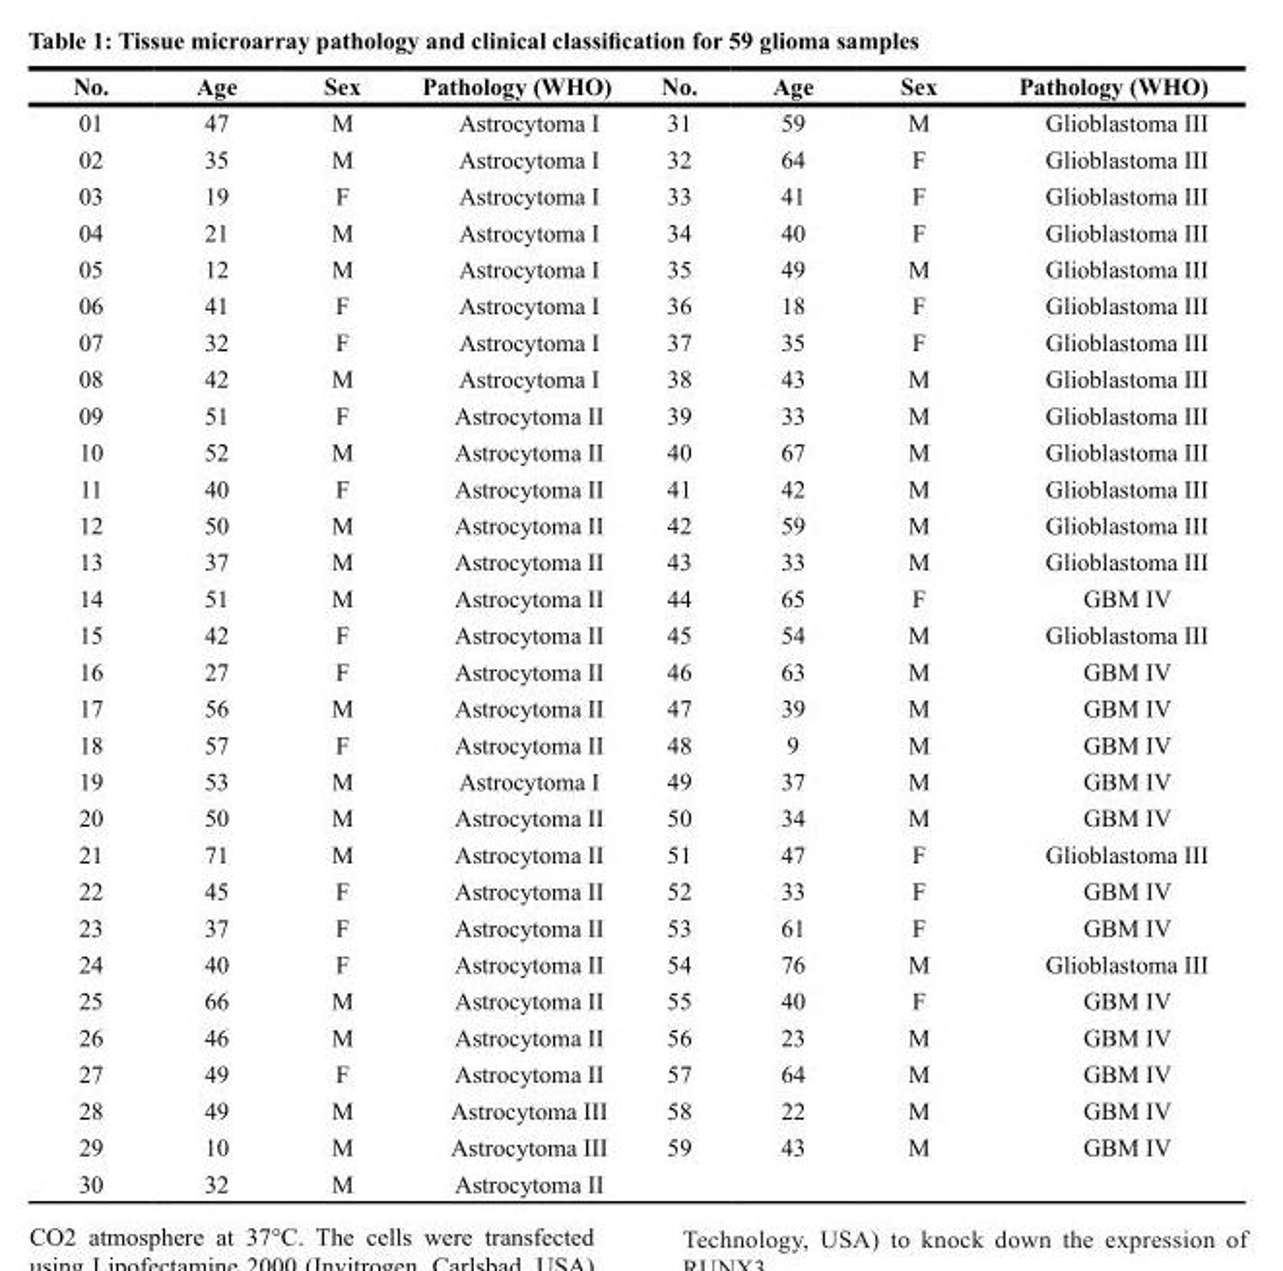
<table><thead><tr><td>No.</td><td>Age</td><td>Sex</td><td>Pathology (WHO)</td><td>No.</td><td>Age</td><td>Sex</td><td>Pathology (WHO)</td></tr></thead><tbody><tr><td>01</td><td>47</td><td>M</td><td>Astrocytoma I</td><td>31</td><td>59</td><td>M</td><td>Glioblastoma III</td></tr><tr><td>02</td><td>35</td><td>M</td><td>Astrocytoma I</td><td>32</td><td>64</td><td>F</td><td>Glioblastoma III</td></tr><tr><td>03</td><td>19</td><td>F</td><td>Astrocytoma I</td><td>33</td><td>41</td><td>F</td><td>Glioblastoma III</td></tr><tr><td>04</td><td>21</td><td>M</td><td>Astrocytoma I</td><td>34</td><td>40</td><td>F</td><td>Glioblastoma III</td></tr><tr><td>05</td><td>12</td><td>M</td><td>Astrocytoma I</td><td>35</td><td>49</td><td>M</td><td>Glioblastoma III</td></tr><tr><td>06</td><td>41</td><td>F</td><td>Astrocytoma I</td><td>36</td><td>18</td><td>F</td><td>Glioblastoma III</td></tr><tr><td>07</td><td>32</td><td>F</td><td>Astrocytoma I</td><td>37</td><td>35</td><td>F</td><td>Glioblastoma III</td></tr><tr><td>08</td><td>42</td><td>M</td><td>Astrocytoma I</td><td>38</td><td>43</td><td>M</td><td>Glioblastoma III</td></tr><tr><td>09</td><td>51</td><td>F</td><td>Astrocytoma II</td><td>39</td><td>33</td><td>M</td><td>Glioblastoma III</td></tr><tr><td>10</td><td>52</td><td>M</td><td>Astrocytoma II</td><td>40</td><td>67</td><td>M</td><td>Glioblastoma III</td></tr><tr><td>11</td><td>40</td><td>F</td><td>Astrocytoma II</td><td>41</td><td>42</td><td>M</td><td>Glioblastoma III</td></tr><tr><td>12</td><td>50</td><td>M</td><td>Astrocytoma II</td><td>42</td><td>59</td><td>M</td><td>Glioblastoma III</td></tr><tr><td>13</td><td>37</td><td>M</td><td>Astrocytoma II</td><td>43</td><td>33</td><td>M</td><td>Glioblastoma III</td></tr><tr><td>14</td><td>51</td><td>M</td><td>Astrocytoma II</td><td>44</td><td>65</td><td>F</td><td>GBM IV</td></tr><tr><td>15</td><td>42</td><td>F</td><td>Astrocytoma II</td><td>45</td><td>54</td><td>M</td><td>Glioblastoma III</td></tr><tr><td>16</td><td>27</td><td>F</td><td>Astrocytoma II</td><td>46</td><td>63</td><td>M</td><td>GBM IV</td></tr><tr><td>17</td><td>56</td><td>M</td><td>Astrocytoma II</td><td>47</td><td>39</td><td>M</td><td>GBM IV</td></tr><tr><td>18</td><td>57</td><td>F</td><td>Astrocytoma II</td><td>48</td><td>9</td><td>M</td><td>GBM IV</td></tr><tr><td>19</td><td>53</td><td>M</td><td>Astrocytoma I</td><td>49</td><td>37</td><td>M</td><td>GBM IV</td></tr><tr><td>20</td><td>50</td><td>M</td><td>Astrocytoma II</td><td>50</td><td>34</td><td>M</td><td>GBM IV</td></tr><tr><td>21</td><td>71</td><td>M</td><td>Astrocytoma II</td><td>51</td><td>47</td><td>F</td><td>Glioblastoma III</td></tr><tr><td>22</td><td>45</td><td>F</td><td>Astrocytoma II</td><td>52</td><td>33</td><td>F</td><td>GBM IV</td></tr><tr><td>23</td><td>37</td><td>F</td><td>Astrocytoma II</td><td>53</td><td>61</td><td>F</td><td>GBM IV</td></tr><tr><td>24</td><td>40</td><td>F</td><td>Astrocytoma II</td><td>54</td><td>76</td><td>M</td><td>Glioblastoma III</td></tr><tr><td>25</td><td>66</td><td>M</td><td>Astrocytoma II</td><td>55</td><td>40</td><td>F</td><td>GBM IV</td></tr><tr><td>26</td><td>46</td><td>M</td><td>Astrocytoma II</td><td>56</td><td>23</td><td>M</td><td>GBM IV</td></tr><tr><td>27</td><td>49</td><td>F</td><td>Astrocytoma II</td><td>57</td><td>64</td><td>M</td><td>GBM IV</td></tr><tr><td>28</td><td>49</td><td>M</td><td>Astrocytoma III</td><td>58</td><td>22</td><td>M</td><td>GBM IV</td></tr><tr><td>29</td><td>10</td><td>M</td><td>Astrocytoma III</td><td>59</td><td>43</td><td>M</td><td>GBM IV</td></tr><tr><td>30</td><td>32</td><td>M</td><td>Astrocytoma II</td><td></td><td></td><td></td><td></td></tr></tbody></table>